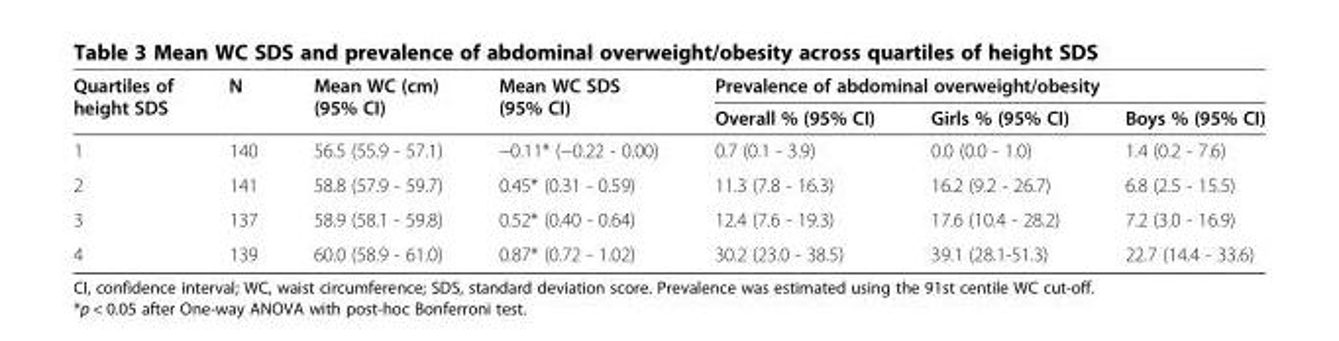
<table><thead><tr><td rowspan="2">Quartiles of height SDS</td><td rowspan="2">N</td><td rowspan="2">Mean WC (cm) (95% CI)</td><td rowspan="2">Mean WC SDS (95% CI)</td><td colspan="3">Prevalence of abdominal overweight/obesity</td></tr><tr><td>Overall % (95% CI)</td><td>Girls % (95% CI)</td><td>Boys % (95% CI)</td></tr></thead><tbody><tr><td>1</td><td>140</td><td>56.5 (55.9 - 57.1)</td><td>−0.11* (−0.22 - 0.00)</td><td>0.7 (0.1 - 3.9)</td><td>0.0 (0.0 - 1.0)</td><td>1.4 (0.2 - 7.6)</td></tr><tr><td>2</td><td>141</td><td>58.8 (57.9 - 59.7)</td><td>0.45* (0.31 - 0.59)</td><td>11.3 (7.8 - 16.3)</td><td>16.2 (9.2 - 26.7)</td><td>6.8 (2.5 - 15.5)</td></tr><tr><td>3</td><td>137</td><td>58.9 (58.1 - 59.8)</td><td>0.52* (0.40 - 0.64)</td><td>12.4 (7.6 - 19.3)</td><td>17.6 (10.4 - 28.2)</td><td>7.2 (3.0 - 16.9)</td></tr><tr><td>4</td><td>139</td><td>60.0 (58.9 - 61.0)</td><td>0.87* (0.72 - 1.02)</td><td>30.2 (23.0 - 38.5)</td><td>39.1 (28.1-51.3)</td><td>22.7 (14.4 - 33.6)</td></tr></tbody></table>